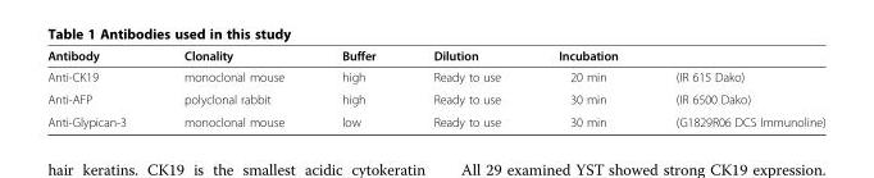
<table><thead><tr><td>Antibody</td><td>Clonality</td><td>Buffer</td><td>Dilution</td><td>Incubation</td><td></td></tr></thead><tbody><tr><td>Anti-CK19</td><td>monoclonal mouse</td><td>high</td><td>Ready to use</td><td>20 min</td><td>(IR 615 Dako)</td></tr><tr><td>Anti-AFP</td><td>polyclonal rabbit</td><td>high</td><td>Ready to use</td><td>30 min</td><td>(IR 6500 Dako)</td></tr><tr><td>Anti-Glypican-3</td><td>monoclonal mouse</td><td>low</td><td>Ready to use</td><td>30 min</td><td>(G1829R06 DCS Immunoline)</td></tr></tbody></table>